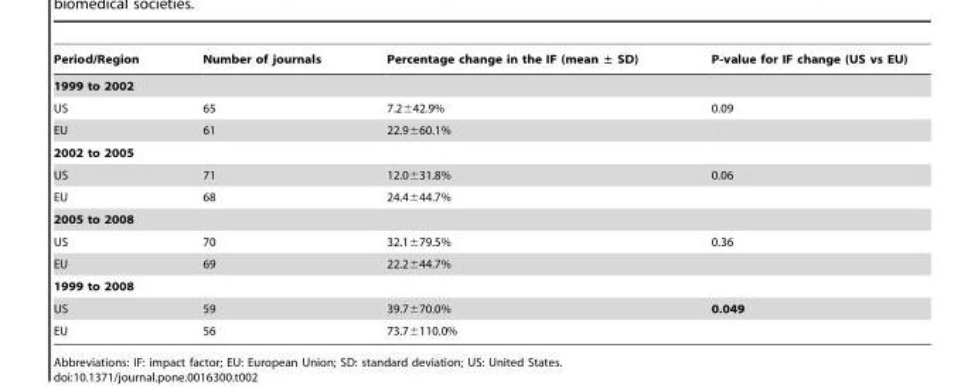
<table><thead><tr><td>Period/Region</td><td>Number of journals</td><td>Percentage change in the IF (mean ± SD)</td><td>P-value for IF change (US vs EU)</td></tr></thead><tbody><tr><td colspan="4">1999 to 2002</td></tr><tr><td>US</td><td>65</td><td>7.2±42.9%</td><td>0.09</td></tr><tr><td>EU</td><td>61</td><td>22.9±60.1%</td><td></td></tr><tr><td colspan="4">2002 to 2005</td></tr><tr><td>US</td><td>71</td><td>12.0±31.8%</td><td>0.06</td></tr><tr><td>EU</td><td>68</td><td>24.4±44.7%</td><td></td></tr><tr><td colspan="4">2005 to 2008</td></tr><tr><td>US</td><td>70</td><td>32.1±79.5%</td><td>0.36</td></tr><tr><td>EU</td><td>69</td><td>22.2±44.7%</td><td></td></tr><tr><td colspan="4">1999 to 2008</td></tr><tr><td>US</td><td>59</td><td>39.7±70.0%</td><td>0.049</td></tr><tr><td>EU</td><td>56</td><td>73.7±110.0%</td><td></td></tr></tbody></table>